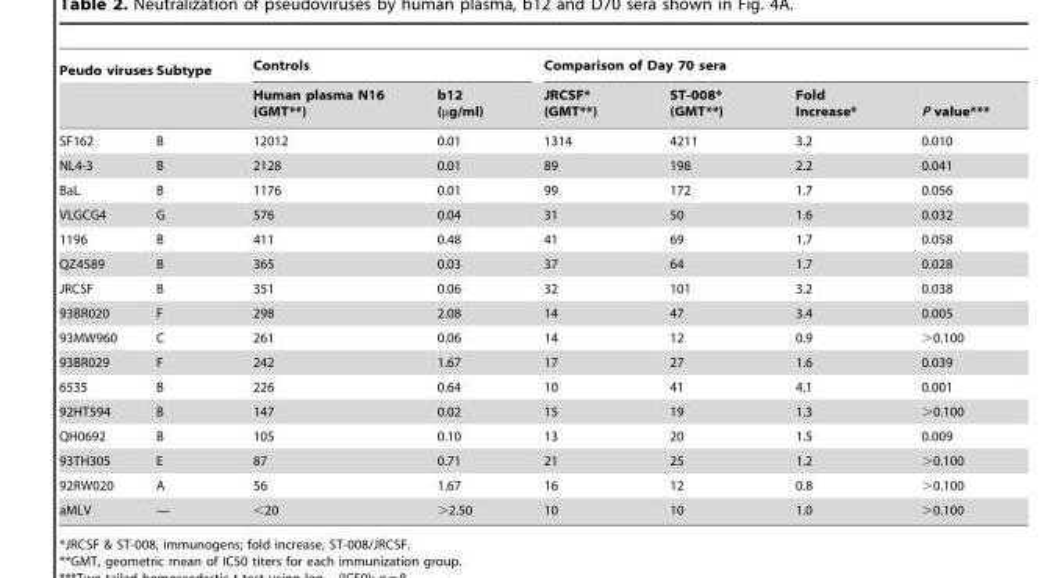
<table><thead><tr><td rowspan="2">Peudo viruses</td><td rowspan="2">Subtype</td><td colspan="2">Controls</td><td colspan="4">Comparison of Day 70 sera</td></tr><tr><td>Human plasma N16 (GMT**)</td><td>b12 (µg/ml)</td><td>JRCSF* (GMT**)</td><td>ST-008* (GMT**)</td><td>Fold Increase*</td><td>P value***</td></tr></thead><tbody><tr><td>SF162</td><td>B</td><td>12012</td><td>0.01</td><td>1314</td><td>4211</td><td>3.2</td><td>0.010</td></tr><tr><td>NL4-3</td><td>B</td><td>2128</td><td>0.01</td><td>89</td><td>198</td><td>2.2</td><td>0.041</td></tr><tr><td>BaL</td><td>B</td><td>1176</td><td>0.01</td><td>99</td><td>172</td><td>1.7</td><td>0.056</td></tr><tr><td>VLGCG4</td><td>G</td><td>576</td><td>0.04</td><td>31</td><td>50</td><td>1.6</td><td>0.032</td></tr><tr><td>1196</td><td>B</td><td>411</td><td>0.48</td><td>41</td><td>69</td><td>1.7</td><td>0.058</td></tr><tr><td>QZ4589</td><td>B</td><td>365</td><td>0.03</td><td>37</td><td>64</td><td>1.7</td><td>0.028</td></tr><tr><td>JRCSF</td><td>B</td><td>351</td><td>0.06</td><td>32</td><td>101</td><td>3.2</td><td>0.038</td></tr><tr><td>93BR020</td><td>F</td><td>298</td><td>2.08</td><td>14</td><td>47</td><td>3.4</td><td>0.005</td></tr><tr><td>93MW960</td><td>C</td><td>261</td><td>0.06</td><td>14</td><td>12</td><td>0.9</td><td>&gt;0.100</td></tr><tr><td>93BR029</td><td>F</td><td>242</td><td>1.67</td><td>17</td><td>27</td><td>1.6</td><td>0.039</td></tr><tr><td>6535</td><td>B</td><td>226</td><td>0.64</td><td>10</td><td>41</td><td>4.1</td><td>0.001</td></tr><tr><td>92HT594</td><td>B</td><td>147</td><td>0.02</td><td>15</td><td>19</td><td>1.3</td><td>&gt;0.100</td></tr><tr><td>QH0692</td><td>B</td><td>105</td><td>0.10</td><td>13</td><td>20</td><td>1.5</td><td>0.009</td></tr><tr><td>93TH305</td><td>E</td><td>87</td><td>0.71</td><td>21</td><td>25</td><td>1.2</td><td>&gt;0.100</td></tr><tr><td>92RW020</td><td>A</td><td>56</td><td>1.67</td><td>16</td><td>12</td><td>0.8</td><td>&gt;0.100</td></tr><tr><td>aMLV</td><td>—</td><td>&lt;20</td><td>&gt;2.50</td><td>10</td><td>10</td><td>1.0</td><td>&gt;0.100</td></tr></tbody></table>